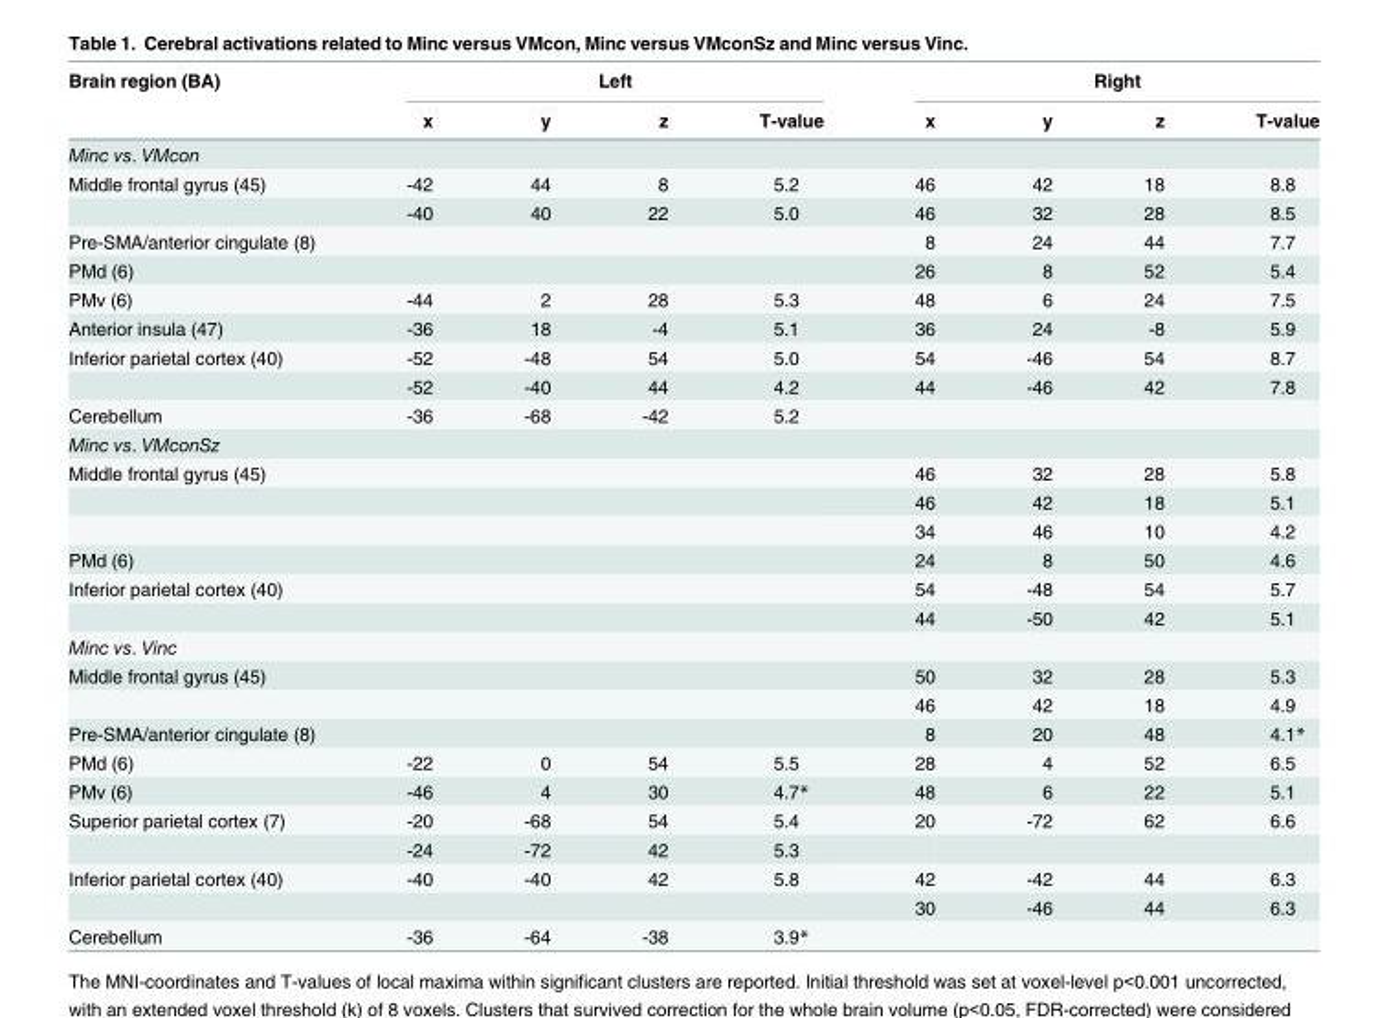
<table><thead><tr><td rowspan="2">Brain region (BA)</td><td colspan="4">Left</td><td colspan="4">Right</td></tr><tr><td>x</td><td>y</td><td>z</td><td>T-value</td><td>x</td><td>y</td><td>z</td><td>T-value</td></tr></thead><tbody><tr><td colspan="9">Minc vs. VMcon</td></tr><tr><td rowspan="2">Middle frontal gyrus (45)</td><td>-42</td><td>44</td><td>8</td><td>5.2</td><td>46</td><td>42</td><td>18</td><td>8.8</td></tr><tr><td>-40</td><td>40</td><td>22</td><td>5.0</td><td>46</td><td>32</td><td>28</td><td>8.5</td></tr><tr><td>Pre-SMA/anterior cingulate (8)</td><td></td><td></td><td></td><td></td><td>8</td><td>24</td><td>44</td><td>7.7</td></tr><tr><td>PMd (6)</td><td></td><td></td><td></td><td></td><td>26</td><td>8</td><td>52</td><td>5.4</td></tr><tr><td>PMv (6)</td><td>-44</td><td>2</td><td>28</td><td>5.3</td><td>48</td><td>6</td><td>24</td><td>7.5</td></tr><tr><td>Anterior insula (47)</td><td>-36</td><td>18</td><td>-4</td><td>5.1</td><td>36</td><td>24</td><td>-8</td><td>5.9</td></tr><tr><td rowspan="2">Inferior parietal cortex (40)</td><td>-52</td><td>-48</td><td>54</td><td>5.0</td><td>54</td><td>-46</td><td>54</td><td>8.7</td></tr><tr><td>-52</td><td>-40</td><td>44</td><td>4.2</td><td>44</td><td>-46</td><td>42</td><td>7.8</td></tr><tr><td>Cerebellum</td><td>-36</td><td>-68</td><td>-42</td><td>5.2</td><td></td><td></td><td></td><td></td></tr><tr><td colspan="9">Minc vs. VMconSz</td></tr><tr><td rowspan="3">Middle frontal gyrus (45)</td><td></td><td></td><td></td><td></td><td>46</td><td>32</td><td>28</td><td>5.8</td></tr><tr><td></td><td></td><td></td><td></td><td>46</td><td>42</td><td>18</td><td>5.1</td></tr><tr><td></td><td></td><td></td><td></td><td>34</td><td>46</td><td>10</td><td>4.2</td></tr><tr><td>PMd (6)</td><td></td><td></td><td></td><td></td><td>24</td><td>8</td><td>50</td><td>4.6</td></tr><tr><td rowspan="2">Inferior parietal cortex (40)</td><td></td><td></td><td></td><td></td><td>54</td><td>-48</td><td>54</td><td>5.7</td></tr><tr><td></td><td></td><td></td><td></td><td>44</td><td>-50</td><td>42</td><td>5.1</td></tr><tr><td colspan="9">Minc vs. Vinc</td></tr><tr><td rowspan="2">Middle frontal gyrus (45)</td><td></td><td></td><td></td><td></td><td>50</td><td>32</td><td>28</td><td>5.3</td></tr><tr><td></td><td></td><td></td><td></td><td>46</td><td>42</td><td>18</td><td>4.9</td></tr><tr><td>Pre-SMA/anterior cingulate (8)</td><td></td><td></td><td></td><td></td><td>8</td><td>20</td><td>48</td><td>4.1*</td></tr><tr><td>PMd (6)</td><td>-22</td><td>0</td><td>54</td><td>5.5</td><td>28</td><td>4</td><td>52</td><td>6.5</td></tr><tr><td>PMv (6)</td><td>-46</td><td>4</td><td>30</td><td>4.7*</td><td>48</td><td>6</td><td>22</td><td>5.1</td></tr><tr><td rowspan="2">Superior parietal cortex (7)</td><td>-20</td><td>-68</td><td>54</td><td>5.4</td><td>20</td><td>-72</td><td>62</td><td>6.6</td></tr><tr><td>-24</td><td>-72</td><td>42</td><td>5.3</td><td></td><td></td><td></td><td></td></tr><tr><td rowspan="2">Inferior parietal cortex (40)</td><td>-40</td><td>-40</td><td>42</td><td>5.8</td><td>42</td><td>-42</td><td>44</td><td>6.3</td></tr><tr><td></td><td></td><td></td><td></td><td>30</td><td>-46</td><td>44</td><td>6.3</td></tr><tr><td>Cerebellum</td><td>-36</td><td>-64</td><td>-38</td><td>3.9*</td><td></td><td></td><td></td><td></td></tr></tbody></table>